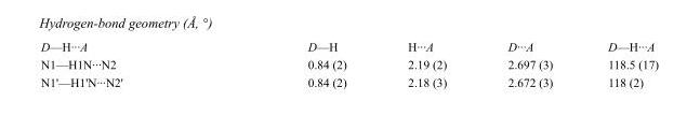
<table><tbody><tr><td>D—H···A</td><td>D—H</td><td>H···A</td><td>D···A</td><td>D—H···A</td></tr><tr><td>N1—H1N···N2</td><td>0.84 (2)</td><td>2.19 (2)</td><td>2.697 (3)</td><td>118.5 (17)</td></tr><tr><td>N1&#x27;—H1&#x27;N···N2&#x27;</td><td>0.84 (2)</td><td>2.18 (3)</td><td>2.672 (3)</td><td>118 (2)</td></tr></tbody></table>